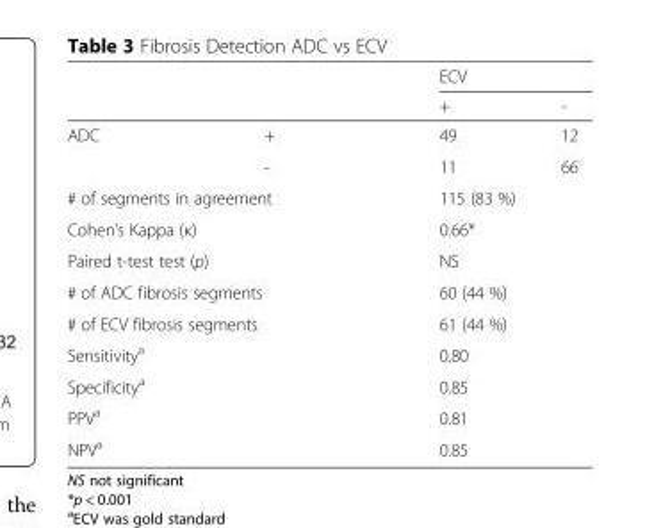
<table><thead><tr><td rowspan="2"></td><td rowspan="2"></td><td colspan="2">ECV</td></tr><tr><td>+</td><td>-</td></tr></thead><tbody><tr><td rowspan="2">ADC</td><td>+</td><td>49</td><td>12</td></tr><tr><td>-</td><td>11</td><td>66</td></tr><tr><td colspan="2"># of segments in agreement</td><td colspan="2">115 (83 %)</td></tr><tr><td colspan="2">Cohen’s Kappa (κ)</td><td colspan="2">0.66*</td></tr><tr><td colspan="2">Paired t-test test (p)</td><td colspan="2">NS</td></tr><tr><td colspan="2"># of ADC fibrosis segments</td><td colspan="2">60 (44 %)</td></tr><tr><td colspan="2"># of ECV fibrosis segments</td><td colspan="2">61 (44 %)</td></tr><tr><td colspan="2">Sensitivity<sup>a</sup></td><td colspan="2">0.80</td></tr><tr><td colspan="2">Specificity<sup>a</sup></td><td colspan="2">0.85</td></tr><tr><td colspan="2">PPV<sup>a</sup></td><td colspan="2">0.81</td></tr><tr><td colspan="2">NPV<sup>a</sup></td><td colspan="2">0.85</td></tr></tbody></table>